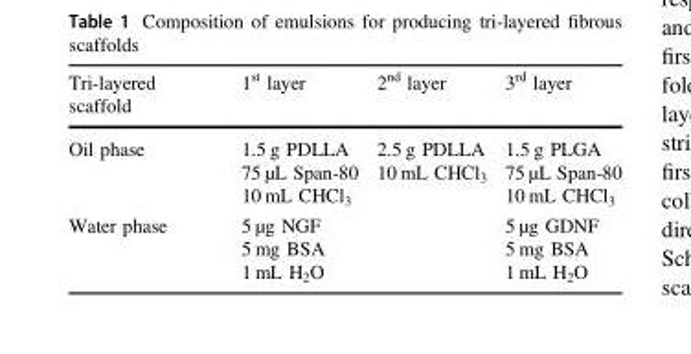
<table><thead><tr><td>Tri-layered scaffold</td><td>1<sup>st</sup> layer</td><td>2<sup>nd</sup> layer</td><td>3<sup>rd</sup> layer</td></tr></thead><tbody><tr><td>Oil phase</td><td>1.5 g PDLLA 75 µL Span-80 10 mL CHCl<sub>3</sub></td><td>2.5 g PDLLA 10 mL CHCl<sub>3</sub></td><td>1.5 g PLGA 75 µL Span-80 10 mL CHCl<sub>3</sub></td></tr><tr><td>Water phase</td><td>5 µg NGF 5 mg BSA 1 mL H<sub>2</sub>O</td><td></td><td>5 µg GDNF 5 mg BSA 1 mL H<sub>2</sub>O</td></tr></tbody></table>